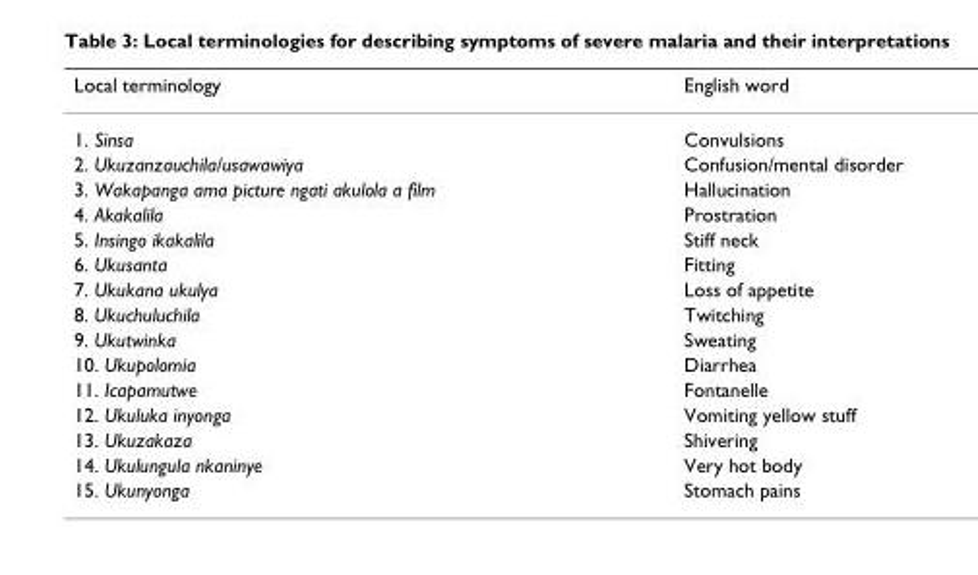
<table><thead><tr><td>Local terminology</td><td>English word</td></tr></thead><tbody><tr><td>1. Sinsa</td><td>Convulsions</td></tr><tr><td>2. Ukuzanzauchila/usawawiya</td><td>Confusion/mental disorder</td></tr><tr><td>3. Wakapanga ama picture ngati akulola a film</td><td>Hallucination</td></tr><tr><td>4. Akakalila</td><td>Prostration</td></tr><tr><td>5. Insingo ikakalila</td><td>Stiff neck</td></tr><tr><td>6. Ukusanta</td><td>Fitting</td></tr><tr><td>7. Ukukana ukulya</td><td>Loss of appetite</td></tr><tr><td>8. Ukuchuluchila</td><td>Twitching</td></tr><tr><td>9. Ukutwinka</td><td>Sweating</td></tr><tr><td>10. Ukupolomia</td><td>Diarrhea</td></tr><tr><td>11. Icapamutwe</td><td>Fontanelle</td></tr><tr><td>12. Ukuluka inyonga</td><td>Vomiting yellow stuff</td></tr><tr><td>13. Ukuzakaza</td><td>Shivering</td></tr><tr><td>14. Ukulungula nkaninye</td><td>Very hot body</td></tr><tr><td>15. Ukunyonga</td><td>Stomach pains</td></tr></tbody></table>